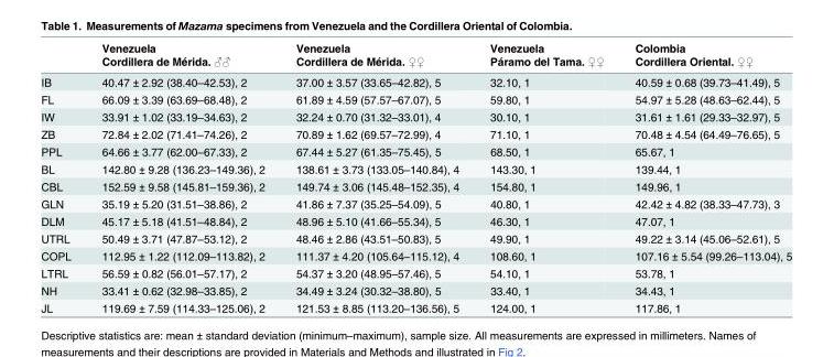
<table><thead><tr><td rowspan="2"></td><td rowspan="2">Venezuela Cordillera de Mérida. ♂♂</td><td rowspan="2">Venezuela Cordillera de Mérida. ♀♀</td><td rowspan="2">Venezuela Páramo del Tama. ♀♀</td><td rowspan="2">Colombia Cordillera Oriental. ♀♀</td></tr><tr></tr></thead><tbody><tr><td>IB</td><td>40.47 ± 2.92 (38.40–42.53), 2</td><td>37.00 ± 3.57 (33.65–42.82), 5</td><td>32.10, 1</td><td>40.59 ± 0.68 (39.73–41.49), 5</td></tr><tr><td>FL</td><td>66.09 ± 3.39 (63.69–68.48), 2</td><td>61.89 ± 4.59 (57.57–67.07), 5</td><td>59.80, 1</td><td>54.97 ± 5.28 (48.63–62.44), 5</td></tr><tr><td>IW</td><td>33.91 ± 1.02 (33.19–34.63), 2</td><td>32.24 ± 0.70 (31.32–33.01), 4</td><td>30.10, 1</td><td>31.61 ± 1.61 (29.33–32.97), 5</td></tr><tr><td>ZB</td><td>72.84 ± 2.02 (71.41–74.26), 2</td><td>70.89 ± 1.62 (69.57–72.99), 4</td><td>71.10, 1</td><td>70.48 ± 4.54 (64.49–76.65), 5</td></tr><tr><td>PPL</td><td>64.66 ± 3.77 (62.00–67.33), 2</td><td>67.44 ± 5.27 (61.35–75.45), 5</td><td>68.50, 1</td><td>65.67, 1</td></tr><tr><td>BL</td><td>142.80 ± 9.28 (136.23–149.36), 2</td><td>138.61 ± 3.73 (133.05–140.84), 4</td><td>143.30, 1</td><td>139.44, 1</td></tr><tr><td>CBL</td><td>152.59 ± 9.58 (145.81–159.36), 2</td><td>149.74 ± 3.06 (145.48–152.35), 4</td><td>154.80, 1</td><td>149.96, 1</td></tr><tr><td>GLN</td><td>35.19 ± 5.20 (31.51–38.86), 2</td><td>41.86 ± 7.37 (35.25–54.09), 5</td><td>40.80, 1</td><td>42.42 ± 4.82 (38.33–47.73), 3</td></tr><tr><td>DLM</td><td>45.17 ± 5.18 (41.51–48.84), 2</td><td>48.96 ± 5.10 (41.66–55.34), 5</td><td>46.30, 1</td><td>47.07, 1</td></tr><tr><td>UTRL</td><td>50.49 ± 3.71 (47.87–53.12), 2</td><td>48.46 ± 2.86 (43.51–50.83), 5</td><td>49.90, 1</td><td>49.22 ± 3.14 (45.06–52.61), 5</td></tr><tr><td>COPL</td><td>112.95 ± 1.22 (112.09–113.82), 2</td><td>111.37 ± 4.20 (105.64–115.12), 4</td><td>108.60, 1</td><td>107.16 ± 5.54 (99.26–113.04), 5</td></tr><tr><td>LTRL</td><td>56.59 ± 0.82 (56.01–57.17), 2</td><td>54.37 ± 3.20 (48.95–57.46), 5</td><td>54.10, 1</td><td>53.78, 1</td></tr><tr><td>NH</td><td>33.41 ± 0.62 (32.98–33.85), 2</td><td>34.49 ± 3.24 (30.32–38.80), 5</td><td>33.40, 1</td><td>34.43, 1</td></tr><tr><td>JL</td><td>119.69 ± 7.59 (114.33–125.06), 2</td><td>121.53 ± 8.85 (113.20–136.56), 5</td><td>124.00, 1</td><td>117.86, 1</td></tr></tbody></table>